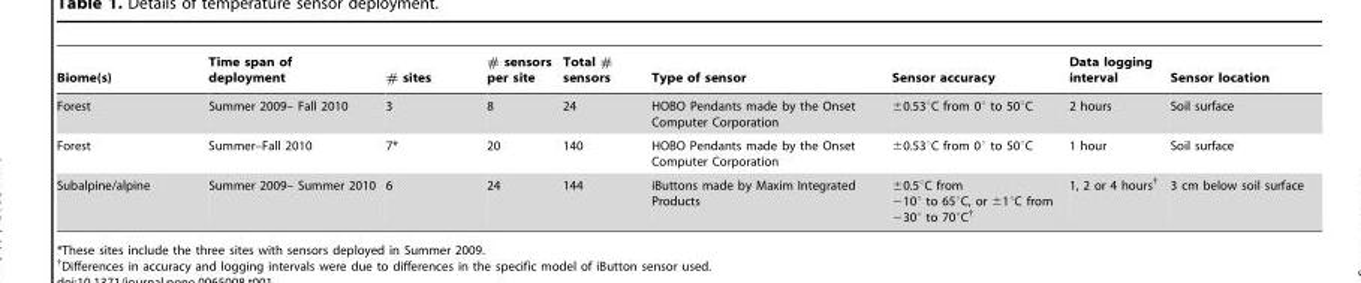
<table><thead><tr><td>Biome(s)</td><td>Time span of deployment</td><td># sites</td><td># sensors per site</td><td>Total # sensors</td><td>Type of sensor</td><td>Sensor accuracy</td><td>Data logging interval</td><td>Sensor location</td></tr></thead><tbody><tr><td>Forest</td><td>Summer 2009– Fall 2010</td><td>3</td><td>8</td><td>24</td><td>HOBO Pendants made by the Onset Computer Corporation</td><td>±0.53°C from 0° to 50°C</td><td>2 hours</td><td>Soil surface</td></tr><tr><td>Forest</td><td>Summer–Fall 2010</td><td>7*</td><td>20</td><td>140</td><td>HOBO Pendants made by the Onset Computer Corporation</td><td>±0.53°C from 0° to 50°C</td><td>1 hour</td><td>Soil surface</td></tr><tr><td>Subalpine/alpine</td><td>Summer 2009– Summer 2010</td><td>6</td><td>24</td><td>144</td><td>iButtons made by Maxim Integrated Products</td><td>±0.5°C from −10° to 65°C, or ±1°C from −30° to 70°C†</td><td>1, 2 or 4 hours†</td><td>3 cm below soil surface</td></tr></tbody></table>